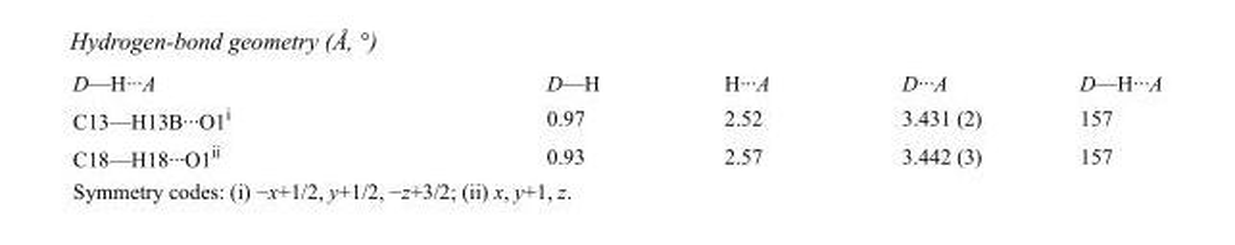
<table><tbody><tr><td>D—H···A</td><td>D—H</td><td>H···A</td><td>D···A</td><td>D—H···A</td></tr><tr><td>C13—H13B···O1<sup>i</sup></td><td>0.97</td><td>2.52</td><td>3.431 (2)</td><td>157</td></tr><tr><td>C18—H18···O1<sup>ii</sup></td><td>0.93</td><td>2.57</td><td>3.442 (3)</td><td>157</td></tr></tbody></table>